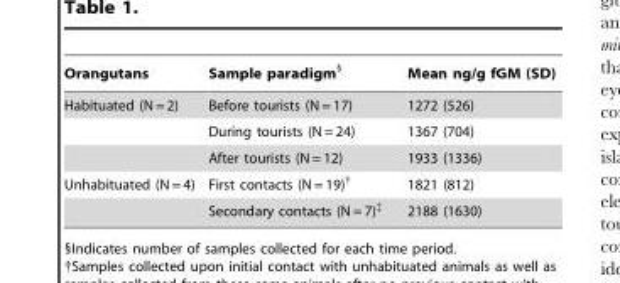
<table><thead><tr><td>Orangutans</td><td>Sample paradigm§</td><td>Mean ng/g fGM (SD)</td></tr></thead><tbody><tr><td rowspan="3">Habituated (N = 2)</td><td>Before tourists (N = 17)</td><td>1272 (526)</td></tr><tr><td>During tourists (N = 24)</td><td>1367 (704)</td></tr><tr><td>After tourists (N = 12)</td><td>1933 (1336)</td></tr><tr><td rowspan="2">Unhabituated (N = 4)</td><td>First contacts (N = 19)†</td><td>1821 (812)</td></tr><tr><td>Secondary contacts (N = 7)‡</td><td>2188 (1630)</td></tr></tbody></table>